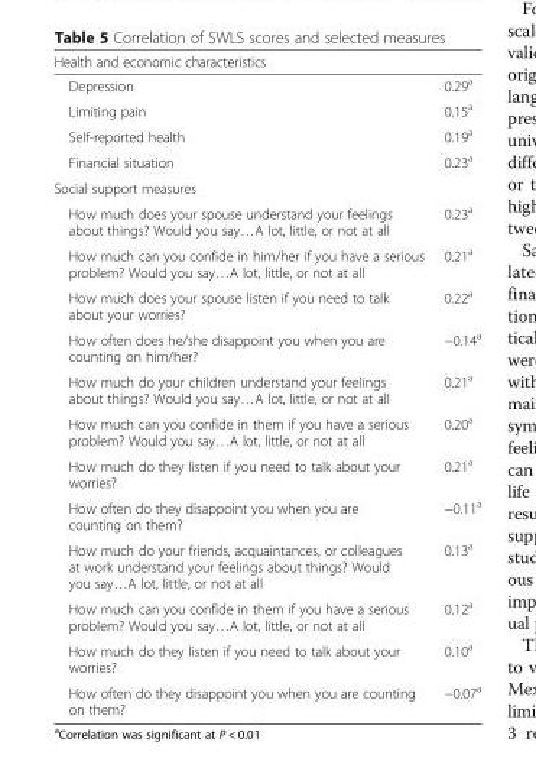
<table><thead><tr><td colspan="2">Health and economic characteristics</td></tr><tr><td>Depression</td><td>0.29<sup>a</sup></td></tr></thead><tbody><tr><td>Limiting pain</td><td>0.15<sup>a</sup></td></tr><tr><td>Self-reported health</td><td>0.19<sup>a</sup></td></tr><tr><td>Financial situation</td><td>0.23<sup>a</sup></td></tr><tr><td colspan="2">Social support measures</td></tr><tr><td>How much does your spouse understand your feelings about things? Would you say…A lot, little, or not at all</td><td>0.23<sup>a</sup></td></tr><tr><td>How much can you confide in him/her if you have a serious problem? Would you say…A lot, little, or not at all</td><td>0.21<sup>a</sup></td></tr><tr><td>How much does your spouse listen if you need to talk about your worries?</td><td>0.22<sup>a</sup></td></tr><tr><td>How often does he/she disappoint you when you are counting on him/her?</td><td>−0.14<sup>a</sup></td></tr><tr><td>How much do your children understand your feelings about things? Would you say…A lot, little, or not at all</td><td>0.21<sup>a</sup></td></tr><tr><td>How much can you confide in them if you have a serious problem? Would you say…A lot, little, or not at all</td><td>0.20<sup>a</sup></td></tr><tr><td>How much do they listen if you need to talk about your worries?</td><td>0.21<sup>a</sup></td></tr><tr><td>How often do they disappoint you when you are counting on them?</td><td>−0.11<sup>a</sup></td></tr><tr><td>How much do your friends, acquaintances, or colleagues at work understand your feelings about things? Would you say…A lot, little, or not at all</td><td>0.13<sup>a</sup></td></tr><tr><td>How much can you confide in them if you have a serious problem? Would you say…A lot, little, or not at all</td><td>0.12<sup>a</sup></td></tr><tr><td>How much do they listen if you need to talk about your worries?</td><td>0.10<sup>a</sup></td></tr><tr><td>How often do they disappoint you when you are counting on them?</td><td>−0.07<sup>a</sup></td></tr></tbody></table>